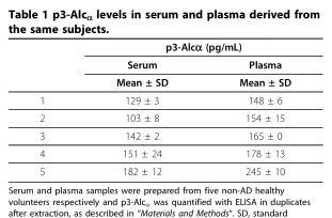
<table><thead><tr><td rowspan="3"></td><td colspan="2">p3-Alcα (pg/mL)</td></tr><tr><td rowspan="2">Serum Mean ± SD</td><td rowspan="2">Plasma Mean ± SD</td></tr><tr></tr></thead><tbody><tr><td>1</td><td>129 ± 3</td><td>148 ± 6</td></tr><tr><td>2</td><td>103 ± 8</td><td>154 ± 15</td></tr><tr><td>3</td><td>142 ± 2</td><td>165 ± 0</td></tr><tr><td>4</td><td>151 ± 24</td><td>178 ± 13</td></tr><tr><td>5</td><td>182 ± 12</td><td>245 ± 10</td></tr></tbody></table>